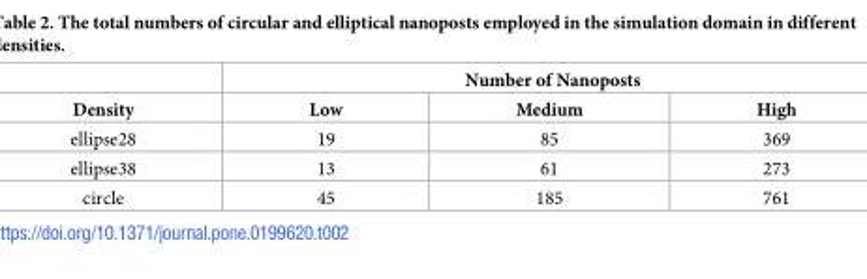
<table><thead><tr><td rowspan="2">Density</td><td colspan="3">Number of Nanoposts</td></tr><tr><td>Low</td><td>Medium</td><td>High</td></tr></thead><tbody><tr><td>ellipse28</td><td>19</td><td>85</td><td>369</td></tr><tr><td>ellipse38</td><td>13</td><td>61</td><td>273</td></tr><tr><td>circle</td><td>45</td><td>185</td><td>761</td></tr></tbody></table>